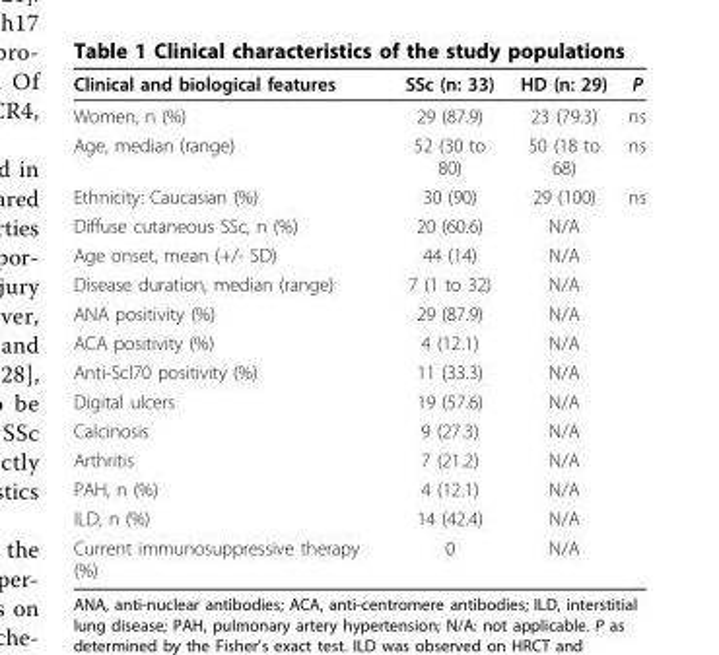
<table><thead><tr><td>Clinical and biological features</td><td>SSc (n: 33)</td><td>HD (n: 29)</td><td>P</td></tr></thead><tbody><tr><td>Women, n (%)</td><td>29 (87.9)</td><td>23 (79.3)</td><td>ns</td></tr><tr><td>Age, median (range)</td><td>52 (30 to 80)</td><td>50 (18 to 68)</td><td>ns</td></tr><tr><td>Ethnicity: Caucasian (%)</td><td>30 (90)</td><td>29 (100)</td><td>ns</td></tr><tr><td>Diffuse cutaneous SSc, n (%)</td><td>20 (60.6)</td><td>N/A</td><td></td></tr><tr><td>Age onset, mean (+/- SD)</td><td>44 (14)</td><td>N/A</td><td></td></tr><tr><td>Disease duration, median (range)</td><td>7 (1 to 32)</td><td>N/A</td><td></td></tr><tr><td>ANA positivity (%)</td><td>29 (87.9)</td><td>N/A</td><td></td></tr><tr><td>ACA positivity (%)</td><td>4 (12.1)</td><td>N/A</td><td></td></tr><tr><td>Anti-Scl70 positivity (%)</td><td>11 (33.3)</td><td>N/A</td><td></td></tr><tr><td>Digital ulcers</td><td>19 (57.6)</td><td>N/A</td><td></td></tr><tr><td>Calcinosis</td><td>9 (27.3)</td><td>N/A</td><td></td></tr><tr><td>Arthritis</td><td>7 (21.2)</td><td>N/A</td><td></td></tr><tr><td>PAH, n (%)</td><td>4 (12.1)</td><td>N/A</td><td></td></tr><tr><td>ILD, n (%)</td><td>14 (42.4)</td><td>N/A</td><td></td></tr><tr><td>Current immunosuppressive therapy (%)</td><td>0</td><td>N/A</td><td></td></tr></tbody></table>